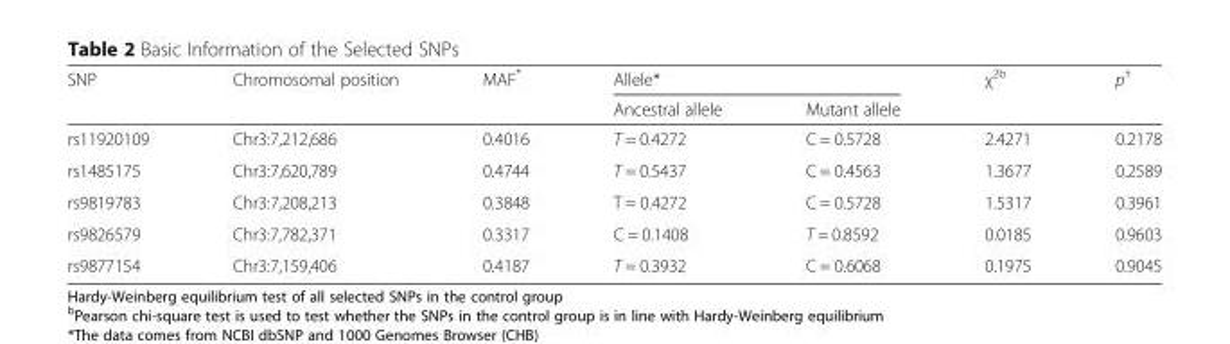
<table><thead><tr><td rowspan="2">SNP</td><td rowspan="2">Chromosomal position</td><td rowspan="2">MAF*</td><td colspan="2">Allele*</td><td rowspan="2">χ<sup>2b</sup></td><td rowspan="2">p<sup>†</sup></td></tr><tr><td>Ancestral allele</td><td>Mutant allele</td></tr></thead><tbody><tr><td>rs11920109</td><td>Chr3:7,212,686</td><td>0.4016</td><td>T = 0.4272</td><td>C = 0.5728</td><td>2.4271</td><td>0.2178</td></tr><tr><td>rs1485175</td><td>Chr3:7,620,789</td><td>0.4744</td><td>T = 0.5437</td><td>C = 0.4563</td><td>1.3677</td><td>0.2589</td></tr><tr><td>rs9819783</td><td>Chr3:7,208,213</td><td>0.3848</td><td>T = 0.4272</td><td>C = 0.5728</td><td>1.5317</td><td>0.3961</td></tr><tr><td>rs9826579</td><td>Chr3:7,782,371</td><td>0.3317</td><td>C = 0.1408</td><td>T = 0.8592</td><td>0.0185</td><td>0.9603</td></tr><tr><td>rs9877154</td><td>Chr3:7,159,406</td><td>0.4187</td><td>T = 0.3932</td><td>C = 0.6068</td><td>0.1975</td><td>0.9045</td></tr></tbody></table>